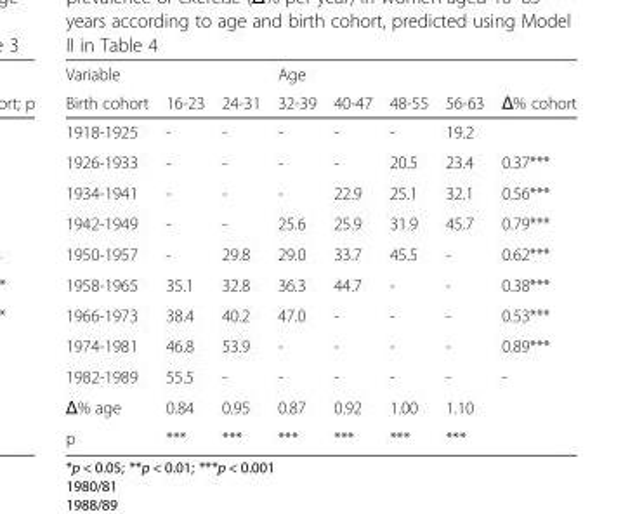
<table><thead><tr><td rowspan="2">Variable Birth cohort</td><td rowspan="2">16-23</td><td rowspan="2">24-31</td><td rowspan="2">Age 32-39</td><td rowspan="2">40-47</td><td rowspan="2">48-55</td><td rowspan="2">56-63</td><td rowspan="2">Δ% cohort</td></tr><tr></tr></thead><tbody><tr><td>1918-1925</td><td>-</td><td>-</td><td>-</td><td>-</td><td>-</td><td>19.2</td><td></td></tr><tr><td>1926-1933</td><td>-</td><td>-</td><td>-</td><td>-</td><td>20.5</td><td>23.4</td><td>0.37***</td></tr><tr><td>1934-1941</td><td>-</td><td>-</td><td>-</td><td>22.9</td><td>25.1</td><td>32.1</td><td>0.56***</td></tr><tr><td>1942-1949</td><td>-</td><td>-</td><td>25.6</td><td>25.9</td><td>31.9</td><td>45.7</td><td>0.79***</td></tr><tr><td>1950-1957</td><td>-</td><td>29.8</td><td>29.0</td><td>33.7</td><td>45.5</td><td>-</td><td>0.62***</td></tr><tr><td>1958-1965</td><td>35.1</td><td>32.8</td><td>36.3</td><td>44.7</td><td>-</td><td>-</td><td>0.38***</td></tr><tr><td>1966-1973</td><td>38.4</td><td>40.2</td><td>47.0</td><td>-</td><td>-</td><td>-</td><td>0.53***</td></tr><tr><td>1974-1981</td><td>46.8</td><td>53.9</td><td>-</td><td>-</td><td>-</td><td>-</td><td>0.89***</td></tr><tr><td>1982-1989</td><td>55.5</td><td>-</td><td>-</td><td>-</td><td>-</td><td>-</td><td>-</td></tr><tr><td>Δ% age</td><td>0.84</td><td>0.95</td><td>0.87</td><td>0.92</td><td>1.00</td><td>1.10</td><td></td></tr><tr><td>p</td><td>***</td><td>***</td><td>***</td><td>***</td><td>***</td><td>***</td><td></td></tr></tbody></table>